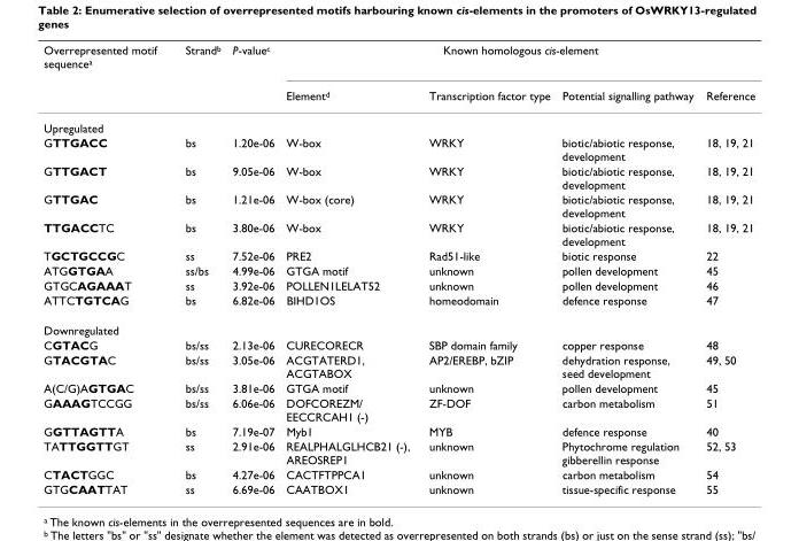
<table><thead><tr><td rowspan="2">Overrepresented motif sequence<sup>a</sup></td><td rowspan="2">Strand<sup>b</sup></td><td rowspan="2">P-value<sup>c</sup></td><td colspan="4">Known homologous cis-element</td></tr><tr><td>Element<sup>d</sup></td><td>Transcription factor type</td><td>Potential signalling pathway</td><td>Reference</td></tr></thead><tbody><tr><td colspan="7">Upregulated</td></tr><tr><td>GTTGACC</td><td>bs</td><td>1.20e-06</td><td>W-box</td><td>WRKY</td><td>biotic/abiotic response, development</td><td>18, 19, 21</td></tr><tr><td>GTTGACT</td><td>bs</td><td>9.05e-06</td><td>W-box</td><td>WRKY</td><td>biotic/abiotic response, development</td><td>18, 19, 21</td></tr><tr><td>GTTGAC</td><td>bs</td><td>1.21e-06</td><td>W-box (core)</td><td>WRKY</td><td>biotic/abiotic response, development</td><td>18, 19, 21</td></tr><tr><td>TTGACCTC</td><td>bs</td><td>3.80e-06</td><td>W-box</td><td>WRKY</td><td>biotic/abiotic response, development</td><td>18, 19, 21</td></tr><tr><td>TGCTGCCGC</td><td>ss</td><td>7.52e-06</td><td>PRE2</td><td>Rad51-like</td><td>biotic response</td><td>22</td></tr><tr><td>ATGGTGAA</td><td>ss/bs</td><td>4.99e-06</td><td>GTGA motif</td><td>unknown</td><td>pollen development</td><td>45</td></tr><tr><td>GTGCAGAAAT</td><td>ss</td><td>3.92e-06</td><td>POLLEN1LELAT52</td><td>unknown</td><td>pollen development</td><td>46</td></tr><tr><td>ATTCTGTCAG</td><td>bs</td><td>6.82e-06</td><td>BIHD1OS</td><td>homeodomain</td><td>defence response</td><td>47</td></tr><tr><td colspan="7">Downregulated</td></tr><tr><td>CGTACG</td><td>bs/ss</td><td>2.13e-06</td><td>CURECORECR</td><td>SBP domain family</td><td>copper response</td><td>48</td></tr><tr><td>GTACGTAC</td><td>bs/ss</td><td>3.05e-06</td><td>ACGTATERD1, ACGTABOX</td><td>AP2/EREBP, bZIP</td><td>dehydration response, seed development</td><td>49, 50</td></tr><tr><td>A(C/G)AGTGAC</td><td>bs/ss</td><td>3.81e-06</td><td>GTGA motif</td><td>unknown</td><td>pollen development</td><td>45</td></tr><tr><td>GAAAGTCCGG</td><td>bs/ss</td><td>6.06e-06</td><td>DOFCOREZM/ EECCRCAH1 (-)</td><td>ZF-DOF</td><td>carbon metabolism</td><td>51</td></tr><tr><td>GGTTAGTTA</td><td>bs</td><td>7.19e-07</td><td>Myb1</td><td>MYB</td><td>defence response</td><td>40</td></tr><tr><td>TATTGGTTGT</td><td>ss</td><td>2.91e-06</td><td>REALPHALGLHCB21 (-), AREOSREP1</td><td>unknown</td><td>Phytochrome regulation gibberellin response</td><td>52, 53</td></tr><tr><td>CTACTGGC</td><td>bs</td><td>4.27e-06</td><td>CACTFTPPCA1</td><td>unknown</td><td>carbon metabolism</td><td>54</td></tr><tr><td>GTGCAATTAT</td><td>ss</td><td>6.69e-06</td><td>CAATBOX1</td><td>unknown</td><td>tissue-specific response</td><td>55</td></tr></tbody></table>